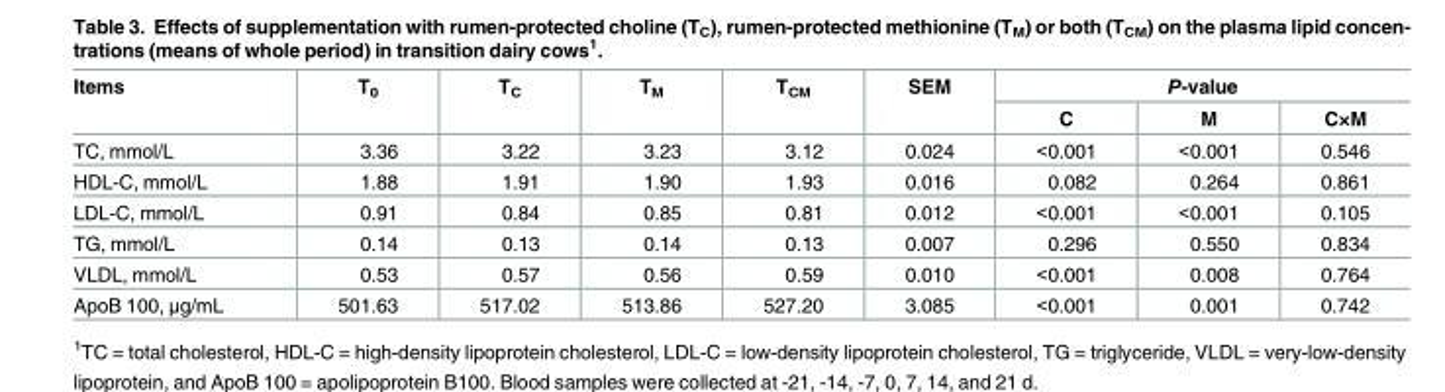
<table><thead><tr><td rowspan="2">Items</td><td rowspan="2">T<sub>0</sub></td><td rowspan="2">T<sub>C</sub></td><td rowspan="2">T<sub>M</sub></td><td rowspan="2">T<sub>CM</sub></td><td rowspan="2">SEM</td><td colspan="3">P-value</td></tr><tr><td>C</td><td>M</td><td>C×M</td></tr></thead><tbody><tr><td>TC, mmol/L</td><td>3.36</td><td>3.22</td><td>3.23</td><td>3.12</td><td>0.024</td><td>&lt;0.001</td><td>&lt;0.001</td><td>0.546</td></tr><tr><td>HDL-C, mmol/L</td><td>1.88</td><td>1.91</td><td>1.90</td><td>1.93</td><td>0.016</td><td>0.082</td><td>0.264</td><td>0.861</td></tr><tr><td>LDL-C, mmol/L</td><td>0.91</td><td>0.84</td><td>0.85</td><td>0.81</td><td>0.012</td><td>&lt;0.001</td><td>&lt;0.001</td><td>0.105</td></tr><tr><td>TG, mmol/L</td><td>0.14</td><td>0.13</td><td>0.14</td><td>0.13</td><td>0.007</td><td>0.296</td><td>0.550</td><td>0.834</td></tr><tr><td>VLDL, mmol/L</td><td>0.53</td><td>0.57</td><td>0.56</td><td>0.59</td><td>0.010</td><td>&lt;0.001</td><td>0.008</td><td>0.764</td></tr><tr><td>ApoB 100, μg/mL</td><td>501.63</td><td>517.02</td><td>513.86</td><td>527.20</td><td>3.085</td><td>&lt;0.001</td><td>0.001</td><td>0.742</td></tr></tbody></table>